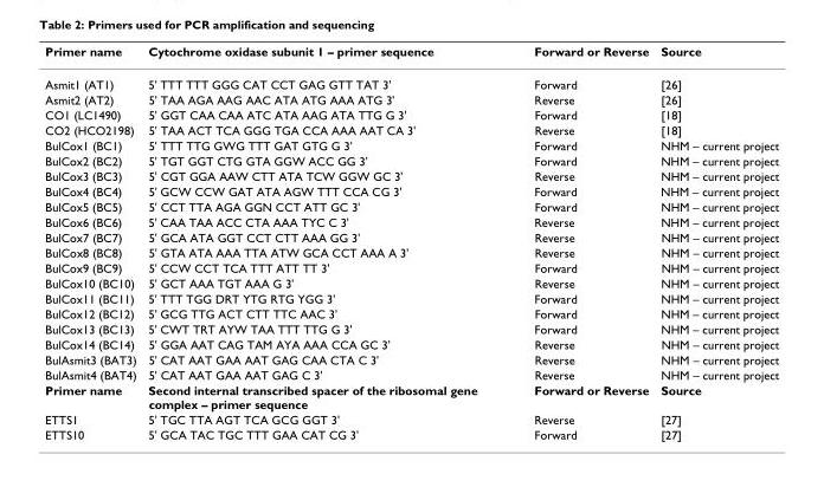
<table><thead><tr><td>Primer name</td><td>Cytochrome oxidase subunit 1 – primer sequence</td><td>Forward or Reverse</td><td>Source</td></tr></thead><tbody><tr><td>Asmit1 (AT1)</td><td>5&#x27; TTT TTT GGG CAT CCT GAG GTT TAT 3&#x27;</td><td>Forward</td><td>[26]</td></tr><tr><td>Asmit2 (AT2)</td><td>5&#x27; TAA AGA AAG AAC ATA ATG AAA ATG 3&#x27;</td><td>Reverse</td><td>[26]</td></tr><tr><td>CO1 (LC1490)</td><td>5&#x27; GGT CAA CAA ATC ATA AAG ATA TTG G 3&#x27;</td><td>Forward</td><td>[18]</td></tr><tr><td>CO2 (HCO2198)</td><td>5&#x27; TAA ACT TCA GGG TGA CCA AAA AAT CA 3&#x27;</td><td>Reverse</td><td>[18]</td></tr><tr><td>BulCox1 (BC1)</td><td>5&#x27; TTT TTG GWG TTT GAT GTG G 3&#x27;</td><td>Forward</td><td>NHM – current project</td></tr><tr><td>BulCox2 (BC2)</td><td>5&#x27; TGT GGT CTG GTA GGW ACC GG 3&#x27;</td><td>Forward</td><td>NHM – current project</td></tr><tr><td>BulCox3 (BC3)</td><td>5&#x27; CGT GGA AAW CTT ATA TCW GGW GC 3&#x27;</td><td>Reverse</td><td>NHM – current project</td></tr><tr><td>BulCox4 (BC4)</td><td>5&#x27; GCW CCW GAT ATA AGW TTT CCA CG 3&#x27;</td><td>Forward</td><td>NHM – current project</td></tr><tr><td>BulCox5 (BC5)</td><td>5&#x27; CCT TTA AGA GGN CCT ATT GC 3&#x27;</td><td>Forward</td><td>NHM – current project</td></tr><tr><td>BulCox6 (BC6)</td><td>5&#x27; CAA TAA ACC CTA AAA TYC C 3&#x27;</td><td>Reverse</td><td>NHM – current project</td></tr><tr><td>BulCox7 (BC7)</td><td>5&#x27; GCA ATA GGT CCT CTT AAA GG 3&#x27;</td><td>Reverse</td><td>NHM – current project</td></tr><tr><td>BulCox8 (BC8)</td><td>5&#x27; GTA ATA AAA TTA ATW GCA CCT AAA A 3&#x27;</td><td>Reverse</td><td>NHM – current project</td></tr><tr><td>BulCox9 (BC9)</td><td>5&#x27; CCW CCT TCA TTT ATT TT 3&#x27;</td><td>Forward</td><td>NHM – current project</td></tr><tr><td>BulCox10 (BC10)</td><td>5&#x27; GCT AAA TGT AAA G 3&#x27;</td><td>Reverse</td><td>NHM – current project</td></tr><tr><td>BulCox11 (BC11)</td><td>5&#x27; TTT TGG DRT YTG RTG YGG 3&#x27;</td><td>Forward</td><td>NHM – current project</td></tr><tr><td>BulCox12 (BC12)</td><td>5&#x27; GCG TTG ACT CTT TTC AAC 3&#x27;</td><td>Forward</td><td>NHM – current project</td></tr><tr><td>BulCox13 (BC13)</td><td>5&#x27; CWT TRT AYW TAA TTT TTG G 3&#x27;</td><td>Forward</td><td>NHM – current project</td></tr><tr><td>BulCox14 (BC14)</td><td>5&#x27; GGA AAT CAG TAM AYA AAA CCA GC 3&#x27;</td><td>Reverse</td><td>NHM – current project</td></tr><tr><td>BulAsmit3 (BAT3)</td><td>5&#x27; CAT AAT GAA AAT GAG CAA CTA C 3&#x27;</td><td>Reverse</td><td>NHM – current project</td></tr><tr><td>BulAsmit4 (BAT4)</td><td>5&#x27; CAT AAT GAA AAT GAG C 3&#x27;</td><td>Reverse</td><td>NHM – current project</td></tr><tr><td>Primer name</td><td>Second internal transcribed spacer of the ribosomal gene complex – primer sequence</td><td>Forward or Reverse</td><td>Source</td></tr><tr><td>ETTS1</td><td>5&#x27; TGC TTA AGT TCA GCG GGT 3&#x27;</td><td>Reverse</td><td>[27]</td></tr><tr><td>ETTS10</td><td>5&#x27; GCA TAC TGC TTT GAA CAT CG 3&#x27;</td><td>Forward</td><td>[27]</td></tr></tbody></table>